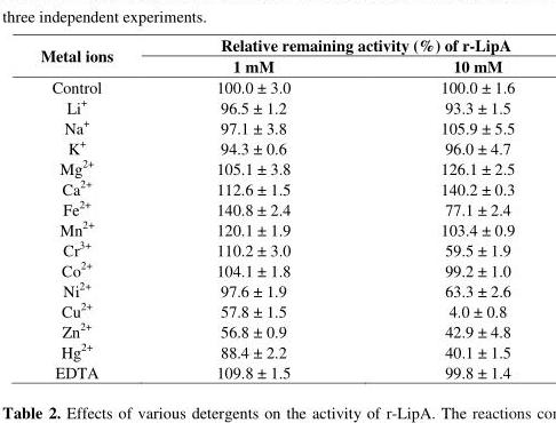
<table><thead><tr><td rowspan="2">Metal ions</td><td colspan="2">Relative remaining activity (%) of r-LipA</td></tr><tr><td>1 mM</td><td>10 mM</td></tr></thead><tbody><tr><td>Control</td><td>100.0 ± 3.0</td><td>100.0 ± 1.6</td></tr><tr><td>Li<sup>+</sup></td><td>96.5 ± 1.2</td><td>93.3 ± 1.5</td></tr><tr><td>Na<sup>+</sup></td><td>97.1 ± 3.8</td><td>105.9 ± 5.5</td></tr><tr><td>K<sup>+</sup></td><td>94.3 ± 0.6</td><td>96.0 ± 4.7</td></tr><tr><td>Mg<sup>2+</sup></td><td>105.1 ± 3.8</td><td>126.1 ± 2.5</td></tr><tr><td>Ca<sup>2+</sup></td><td>112.6 ± 1.5</td><td>140.2 ± 0.3</td></tr><tr><td>Fe<sup>2+</sup></td><td>140.8 ± 2.4</td><td>77.1 ± 2.4</td></tr><tr><td>Mn<sup>2+</sup></td><td>120.1 ± 1.9</td><td>103.4 ± 0.9</td></tr><tr><td>Cr<sup>3+</sup></td><td>110.2 ± 3.0</td><td>59.5 ± 1.9</td></tr><tr><td>Co<sup>2+</sup></td><td>104.1 ± 1.8</td><td>99.2 ± 1.0</td></tr><tr><td>Ni<sup>2+</sup></td><td>97.6 ± 1.9</td><td>63.3 ± 2.6</td></tr><tr><td>Cu<sup>2+</sup></td><td>57.8 ± 1.5</td><td>4.0 ± 0.8</td></tr><tr><td>Zn<sup>2+</sup></td><td>56.8 ± 0.9</td><td>42.9 ± 4.8</td></tr><tr><td>Hg<sup>2+</sup></td><td>88.4 ± 2.2</td><td>40.1 ± 1.5</td></tr><tr><td>EDTA</td><td>109.8 ± 1.5</td><td>99.8 ± 1.4</td></tr></tbody></table>